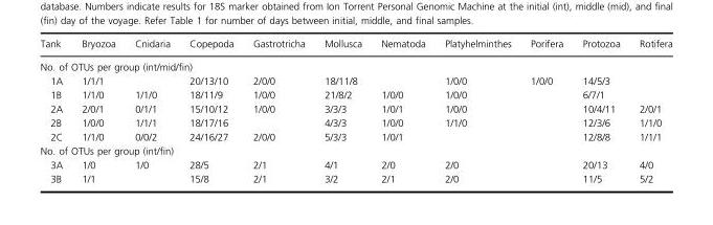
<table><thead><tr><td>Tank</td><td>Bryozoa</td><td>Cnidaria</td><td>Copepoda</td><td>Gastrotricha</td><td>Mollusca</td><td>Nematoda</td><td>Platyhelminthes</td><td>Porifera</td><td>Protozoa</td><td>Rotifera</td></tr></thead><tbody><tr><td colspan="11">No. of OTUs per group (int/mid/fin)</td></tr><tr><td>1A</td><td>1/1/1</td><td></td><td>20/13/10</td><td>2/0/0</td><td>18/11/8</td><td></td><td>1/0/0</td><td>1/0/0</td><td>14/5/3</td><td></td></tr><tr><td>1B</td><td>1/1/0</td><td>1/1/0</td><td>18/11/9</td><td>1/0/0</td><td>21/8/2</td><td>1/0/0</td><td>1/0/0</td><td></td><td>6/7/1</td><td></td></tr><tr><td>2A</td><td>2/0/1</td><td>0/1/1</td><td>15/10/12</td><td>1/0/0</td><td>3/3/3</td><td>1/0/1</td><td>1/0/0</td><td></td><td>10/4/11</td><td>2/0/1</td></tr><tr><td>2B</td><td>1/0/0</td><td>1/1/1</td><td>18/17/16</td><td></td><td>4/3/3</td><td>1/0/0</td><td>1/1/0</td><td></td><td>12/3/6</td><td>1/1/0</td></tr><tr><td>2C</td><td>1/1/0</td><td>0/0/2</td><td>24/16/27</td><td>2/0/0</td><td>5/3/3</td><td>1/0/1</td><td></td><td></td><td>12/8/8</td><td>1/1/1</td></tr><tr><td colspan="11">No. of OTUs per group (int/fin)</td></tr><tr><td>3A</td><td>1/0</td><td>1/0</td><td>28/5</td><td>2/1</td><td>4/1</td><td>2/0</td><td>2/0</td><td></td><td>20/13</td><td>4/0</td></tr><tr><td>3B</td><td>1/1</td><td></td><td>15/8</td><td>2/1</td><td>3/2</td><td>2/1</td><td>2/0</td><td></td><td>11/5</td><td>5/2</td></tr></tbody></table>